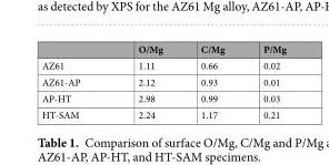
<table><thead><tr><td></td><td>O/Mg</td><td>C/Mg</td><td>P/Mg</td></tr></thead><tbody><tr><td>AZ61</td><td>1.11</td><td>0.66</td><td>0.02</td></tr><tr><td>AZ61-AP</td><td>2.12</td><td>0.93</td><td>0.01</td></tr><tr><td>AP-HT</td><td>2.98</td><td>0.99</td><td>0.03</td></tr><tr><td>HT-SAM</td><td>2.24</td><td>1.17</td><td>0.21</td></tr></tbody></table>